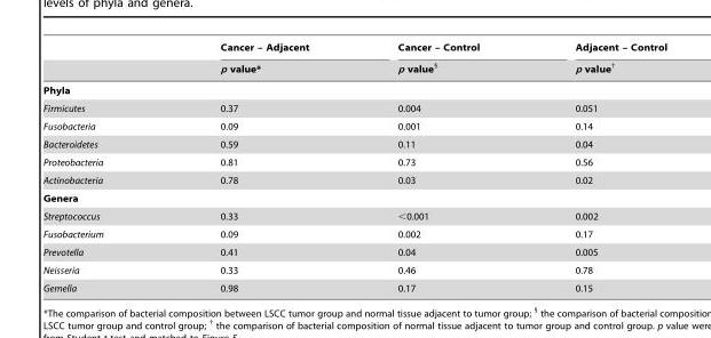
<table><thead><tr><td rowspan="2"></td><td rowspan="2">Cancer – Adjacent p value*</td><td rowspan="2">Cancer – Control p value<sup>§</sup></td><td rowspan="2">Adjacent – Control p value<sup>†</sup></td></tr><tr></tr></thead><tbody><tr><td colspan="4">Phyla</td></tr><tr><td>Firmicutes</td><td>0.37</td><td>0.004</td><td>0.051</td></tr><tr><td>Fusobacteria</td><td>0.09</td><td>0.001</td><td>0.14</td></tr><tr><td>Bacteroidetes</td><td>0.59</td><td>0.11</td><td>0.04</td></tr><tr><td>Proteobacteria</td><td>0.81</td><td>0.73</td><td>0.56</td></tr><tr><td>Actinobacteria</td><td>0.78</td><td>0.03</td><td>0.02</td></tr><tr><td colspan="4">Genera</td></tr><tr><td>Streptococcus</td><td>0.33</td><td>&lt;0.001</td><td>0.002</td></tr><tr><td>Fusobacterium</td><td>0.09</td><td>0.002</td><td>0.17</td></tr><tr><td>Prevotella</td><td>0.41</td><td>0.04</td><td>0.005</td></tr><tr><td>Neisseria</td><td>0.33</td><td>0.46</td><td>0.78</td></tr><tr><td>Gemella</td><td>0.98</td><td>0.17</td><td>0.15</td></tr></tbody></table>